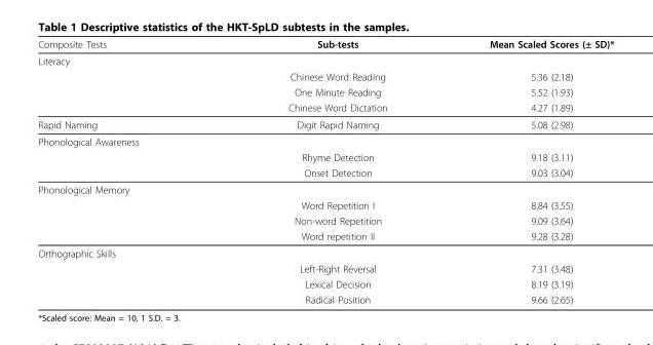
<table><thead><tr><td>Composite Tests</td><td>Sub-tests</td><td>Mean Scaled Scores (± SD)*</td></tr></thead><tbody><tr><td colspan="3">Literacy</td></tr><tr><td></td><td>Chinese Word Reading</td><td>5.36 (2.18)</td></tr><tr><td></td><td>One Minute Reading</td><td>5.52 (1.93)</td></tr><tr><td></td><td>Chinese Word Dictation</td><td>4.27 (1.89)</td></tr><tr><td>Rapid Naming</td><td>Digit Rapid Naming</td><td>5.08 (2.98)</td></tr><tr><td colspan="3">Phonological Awareness</td></tr><tr><td></td><td>Rhyme Detection</td><td>9.18 (3.11)</td></tr><tr><td></td><td>Onset Detection</td><td>9.03 (3.04)</td></tr><tr><td colspan="3">Phonological Memory</td></tr><tr><td></td><td>Word Repetition I</td><td>8.84 (3.55)</td></tr><tr><td></td><td>Non-word Repetition</td><td>9.09 (3.64)</td></tr><tr><td></td><td>Word repetition II</td><td>9.28 (3.28)</td></tr><tr><td colspan="3">Orthographic Skills</td></tr><tr><td></td><td>Left-Right Reversal</td><td>7.31 (3.48)</td></tr><tr><td></td><td>Lexical Decision</td><td>8.19 (3.19)</td></tr><tr><td></td><td>Radical Position</td><td>9.66 (2.65)</td></tr></tbody></table>